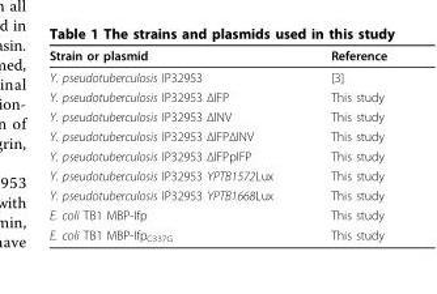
<table><thead><tr><td>Strain or plasmid</td><td>Reference</td></tr></thead><tbody><tr><td>Y. pseudotuberculosis IP32953</td><td>[3]</td></tr><tr><td>Y. pseudotuberculosis IP32953 ΔIFP</td><td>This study</td></tr><tr><td>Y. pseudotuberculosis IP32953 ΔINV</td><td>This study</td></tr><tr><td>Y. pseudotuberculosis IP32953 ΔIFPΔINV</td><td>This study</td></tr><tr><td>Y. pseudotuberculosis IP32953 ΔIFPpIFP</td><td>This study</td></tr><tr><td>Y. pseudotuberculosis IP32953 YPTB1572Lux</td><td>This study</td></tr><tr><td>Y. pseudotuberculosis IP32953 YPTB1668Lux</td><td>This study</td></tr><tr><td>E. coli TB1 MBP-Ifp</td><td>This study</td></tr><tr><td>E. coli TB1 MBP-Ifp<sub>C337G</sub></td><td>This study</td></tr></tbody></table>